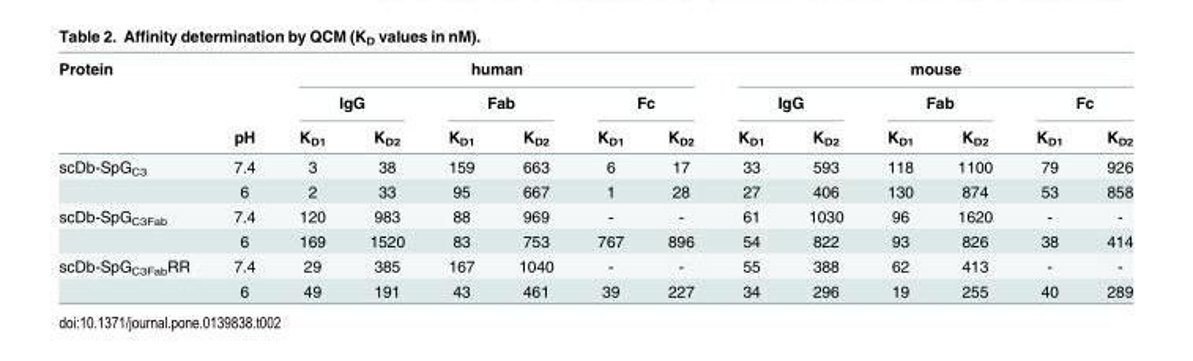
<table><thead><tr><td rowspan="3">Protein</td><td rowspan="3">pH</td><td colspan="6">human</td><td colspan="6">mouse</td></tr><tr><td colspan="2">IgG</td><td colspan="2">Fab</td><td colspan="2">Fc</td><td colspan="2">IgG</td><td colspan="2">Fab</td><td colspan="2">Fc</td></tr><tr><td>K<sub>D1</sub></td><td>K<sub>D2</sub></td><td>K<sub>D1</sub></td><td>K<sub>D2</sub></td><td>K<sub>D1</sub></td><td>K<sub>D2</sub></td><td>K<sub>D1</sub></td><td>K<sub>D2</sub></td><td>K<sub>D1</sub></td><td>K<sub>D2</sub></td><td>K<sub>D1</sub></td><td>K<sub>D2</sub></td></tr></thead><tbody><tr><td rowspan="2">scDb-SpG<sub>C3</sub></td><td>7.4</td><td>3</td><td>38</td><td>159</td><td>663</td><td>6</td><td>17</td><td>33</td><td>593</td><td>118</td><td>1100</td><td>79</td><td>926</td></tr><tr><td>6</td><td>2</td><td>33</td><td>95</td><td>667</td><td>1</td><td>28</td><td>27</td><td>406</td><td>130</td><td>874</td><td>53</td><td>858</td></tr><tr><td rowspan="2">scDb-SpG<sub>C3Fab</sub></td><td>7.4</td><td>120</td><td>983</td><td>88</td><td>969</td><td>-</td><td>-</td><td>61</td><td>1030</td><td>96</td><td>1620</td><td>-</td><td>-</td></tr><tr><td>6</td><td>169</td><td>1520</td><td>83</td><td>753</td><td>767</td><td>896</td><td>54</td><td>822</td><td>93</td><td>826</td><td>38</td><td>414</td></tr><tr><td rowspan="2">scDb-SpG<sub>C3Fab</sub>RR</td><td>7.4</td><td>29</td><td>385</td><td>167</td><td>1040</td><td>-</td><td>-</td><td>55</td><td>388</td><td>62</td><td>413</td><td>-</td><td>-</td></tr><tr><td>6</td><td>49</td><td>191</td><td>43</td><td>461</td><td>39</td><td>227</td><td>34</td><td>296</td><td>19</td><td>255</td><td>40</td><td>289</td></tr></tbody></table>